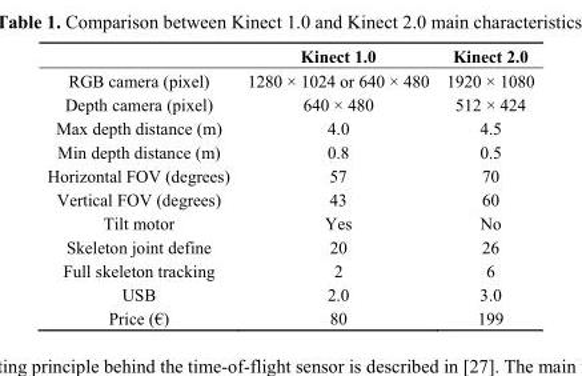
<table><thead><tr><td></td><td>Kinect 1.0</td><td>Kinect 2.0</td></tr></thead><tbody><tr><td>RGB camera (pixel)</td><td>1280 × 1024 or 640 × 480</td><td>1920 × 1080</td></tr><tr><td>Depth camera (pixel)</td><td>640 × 480</td><td>512 × 424</td></tr><tr><td>Max depth distance (m)</td><td>4.0</td><td>4.5</td></tr><tr><td>Min depth distance (m)</td><td>0.8</td><td>0.5</td></tr><tr><td>Horizontal FOV (degrees)</td><td>57</td><td>70</td></tr><tr><td>Vertical FOV (degrees)</td><td>43</td><td>60</td></tr><tr><td>Tilt motor</td><td>Yes</td><td>No</td></tr><tr><td>Skeleton joint define</td><td>20</td><td>26</td></tr><tr><td>Full skeleton tracking</td><td>2</td><td>6</td></tr><tr><td>USB</td><td>2.0</td><td>3.0</td></tr><tr><td>Price (€)</td><td>80</td><td>199</td></tr></tbody></table>